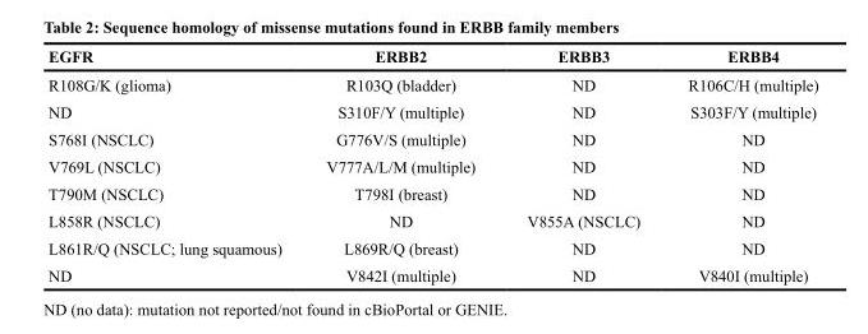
<table><thead><tr><td>EGFR</td><td>ERBB2</td><td>ERBB3</td><td>ERBB4</td></tr></thead><tbody><tr><td>R108G/K (glioma)</td><td>R103Q (bladder)</td><td>ND</td><td>R106C/H (multiple)</td></tr><tr><td>ND</td><td>S310F/Y (multiple)</td><td>ND</td><td>S303F/Y (multiple)</td></tr><tr><td>S768I (NSCLC)</td><td>G776V/S (multiple)</td><td>ND</td><td>ND</td></tr><tr><td>V769L (NSCLC)</td><td>V777A/L/M (multiple)</td><td>ND</td><td>ND</td></tr><tr><td>T790M (NSCLC)</td><td>T798I (breast)</td><td>ND</td><td>ND</td></tr><tr><td>L858R (NSCLC)</td><td>ND</td><td>V855A (NSCLC)</td><td>ND</td></tr><tr><td>L861R/Q (NSCLC; lung squamous)</td><td>L869R/Q (breast)</td><td>ND</td><td>ND</td></tr><tr><td>ND</td><td>V842I (multiple)</td><td>ND</td><td>V840I (multiple)</td></tr></tbody></table>